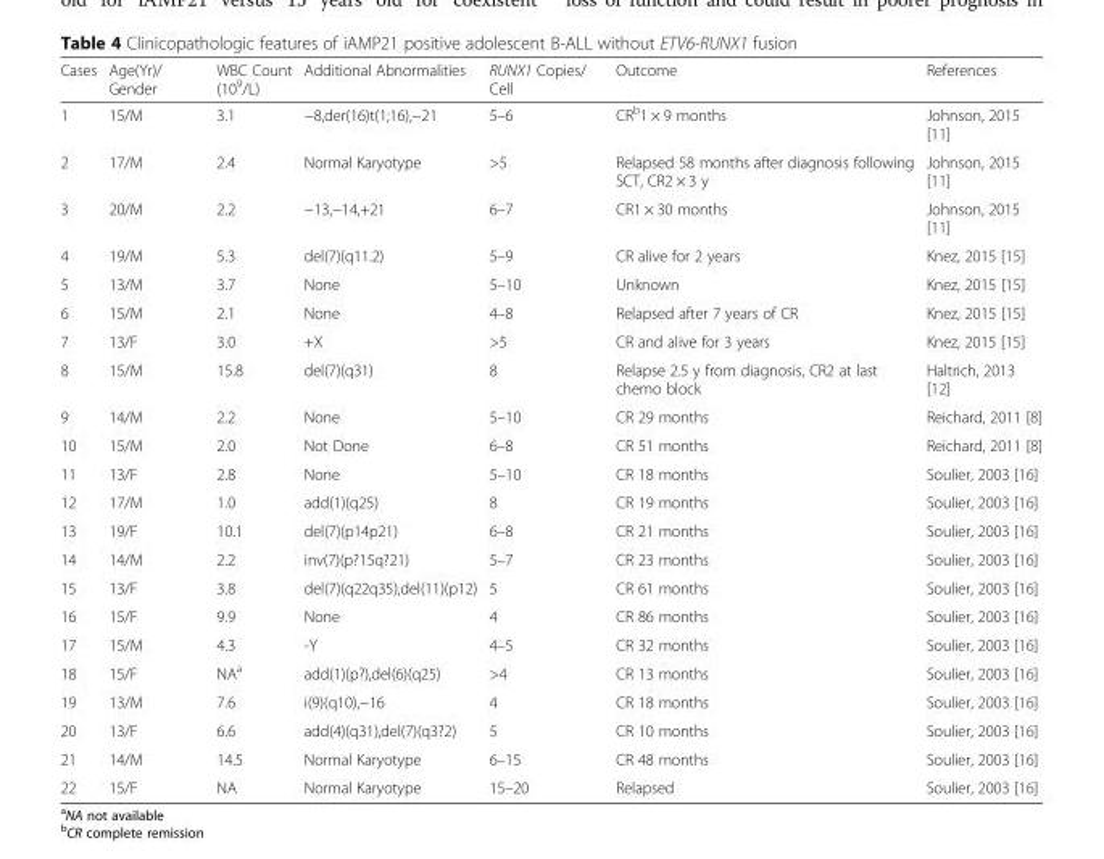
<table><thead><tr><td>Cases</td><td>Age(Yr)/ Gender</td><td>WBC Count (10<sup>9</sup>/L)</td><td>Additional Abnormalities</td><td>RUNX1 Copies/ Cell</td><td>Outcome</td><td>References</td></tr></thead><tbody><tr><td>1</td><td>15/M</td><td>3.1</td><td>−8,der(16)t(1;16),−21</td><td>5–6</td><td>CR<sup>b</sup>1 × 9 months</td><td>Johnson, 2015 [11]</td></tr><tr><td>2</td><td>17/M</td><td>2.4</td><td>Normal Karyotype</td><td>&gt;5</td><td>Relapsed 58 months after diagnosis following SCT, CR2 × 3 y</td><td>Johnson, 2015 [11]</td></tr><tr><td>3</td><td>20/M</td><td>2.2</td><td>−13,−14,+21</td><td>6–7</td><td>CR1 × 30 months</td><td>Johnson, 2015 [11]</td></tr><tr><td>4</td><td>19/M</td><td>5.3</td><td>del(7)(q11.2)</td><td>5–9</td><td>CR alive for 2 years</td><td>Knez, 2015 [15]</td></tr><tr><td>5</td><td>13/M</td><td>3.7</td><td>None</td><td>5–10</td><td>Unknown</td><td>Knez, 2015 [15]</td></tr><tr><td>6</td><td>15/M</td><td>2.1</td><td>None</td><td>4–8</td><td>Relapsed after 7 years of CR</td><td>Knez, 2015 [15]</td></tr><tr><td>7</td><td>13/F</td><td>3.0</td><td>+X</td><td>&gt;5</td><td>CR and alive for 3 years</td><td>Knez, 2015 [15]</td></tr><tr><td>8</td><td>15/M</td><td>15.8</td><td>del(7)(q31)</td><td>8</td><td>Relapse 2.5 y from diagnosis, CR2 at last chemo block</td><td>Haltrich, 2013 [12]</td></tr><tr><td>9</td><td>14/M</td><td>2.2</td><td>None</td><td>5–10</td><td>CR 29 months</td><td>Reichard, 2011 [8]</td></tr><tr><td>10</td><td>15/M</td><td>2.0</td><td>Not Done</td><td>6–8</td><td>CR 51 months</td><td>Reichard, 2011 [8]</td></tr><tr><td>11</td><td>13/F</td><td>2.8</td><td>None</td><td>5–10</td><td>CR 18 months</td><td>Soulier, 2003 [16]</td></tr><tr><td>12</td><td>17/M</td><td>1.0</td><td>add(1)(q25)</td><td>8</td><td>CR 19 months</td><td>Soulier, 2003 [16]</td></tr><tr><td>13</td><td>19/F</td><td>10.1</td><td>del(7)(p14p21)</td><td>6–8</td><td>CR 21 months</td><td>Soulier, 2003 [16]</td></tr><tr><td>14</td><td>14/M</td><td>2.2</td><td>inv(7)(p?15q?21)</td><td>5–7</td><td>CR 23 months</td><td>Soulier, 2003 [16]</td></tr><tr><td>15</td><td>13/F</td><td>3.8</td><td>del(7)(q22q35),del(11)(p12)</td><td>5</td><td>CR 61 months</td><td>Soulier, 2003 [16]</td></tr><tr><td>16</td><td>15/F</td><td>9.9</td><td>None</td><td>4</td><td>CR 86 months</td><td>Soulier, 2003 [16]</td></tr><tr><td>17</td><td>15/M</td><td>4.3</td><td>-Y</td><td>4–5</td><td>CR 32 months</td><td>Soulier, 2003 [16]</td></tr><tr><td>18</td><td>15/F</td><td>NA<sup>a</sup></td><td>add(1)(p?),del(6)(q25)</td><td>&gt;4</td><td>CR 13 months</td><td>Soulier, 2003 [16]</td></tr><tr><td>19</td><td>13/M</td><td>7.6</td><td>i(9)(q10),−16</td><td>4</td><td>CR 18 months</td><td>Soulier, 2003 [16]</td></tr><tr><td>20</td><td>13/F</td><td>6.6</td><td>add(4)(q31),del(7)(q3?2)</td><td>5</td><td>CR 10 months</td><td>Soulier, 2003 [16]</td></tr><tr><td>21</td><td>14/M</td><td>14.5</td><td>Normal Karyotype</td><td>6–15</td><td>CR 48 months</td><td>Soulier, 2003 [16]</td></tr><tr><td>22</td><td>15/F</td><td>NA</td><td>Normal Karyotype</td><td>15–20</td><td>Relapsed</td><td>Soulier, 2003 [16]</td></tr></tbody></table>